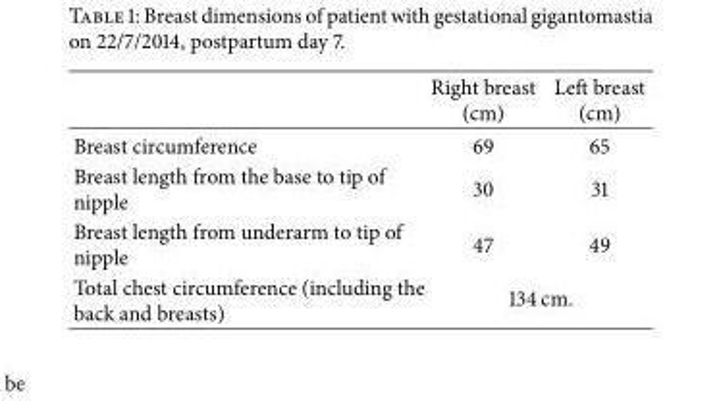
<table><thead><tr><td></td><td>Right breast (cm)</td><td>Left breast (cm)</td></tr></thead><tbody><tr><td>Breast circumference</td><td>69</td><td>65</td></tr><tr><td>Breast length from the base to tip of nipple</td><td>30</td><td>31</td></tr><tr><td>Breast length from underarm to tip of nipple</td><td>47</td><td>49</td></tr><tr><td>Total chest circumference (including the back and breasts)</td><td colspan="2">134 cm.</td></tr></tbody></table>